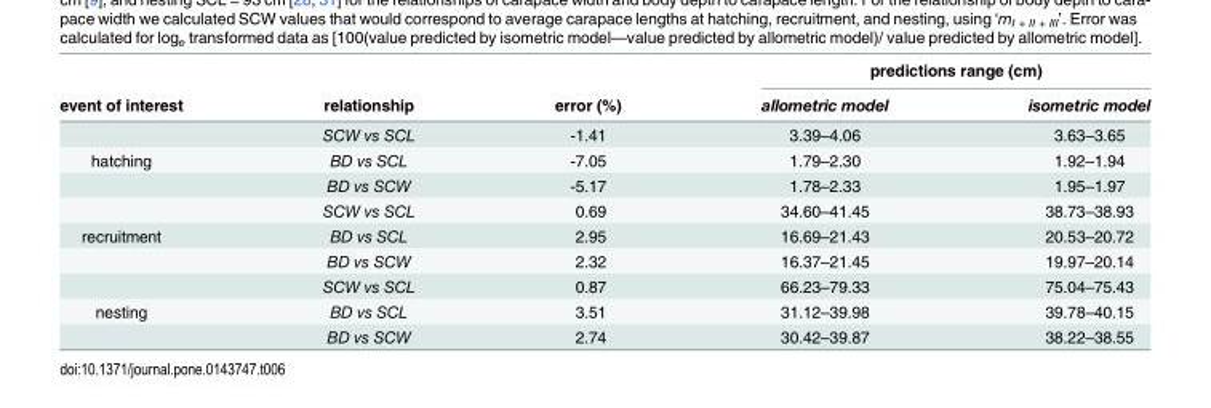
<table><thead><tr><td rowspan="2">event of interest</td><td rowspan="2">relationship</td><td rowspan="2">error (%)</td><td colspan="2">predictions range (cm)</td></tr><tr><td>allometric model</td><td>isometric model</td></tr></thead><tbody><tr><td></td><td>SCW vs SCL</td><td>-1.41</td><td>3.39–4.06</td><td>3.63–3.65</td></tr><tr><td rowspan="3">hatching</td><td>BD vs SCL</td><td>-7.05</td><td>1.79–2.30</td><td>1.92–1.94</td></tr><tr><td>BD vs SCW</td><td>-5.17</td><td>1.78–2.33</td><td>1.95–1.97</td></tr><tr><td>SCW vs SCL</td><td>0.69</td><td>34.60–41.45</td><td>38.73–38.93</td></tr><tr><td rowspan="3">recruitment</td><td>BD vs SCL</td><td>2.95</td><td>16.69–21.43</td><td>20.53–20.72</td></tr><tr><td>BD vs SCW</td><td>2.32</td><td>16.37–21.45</td><td>19.97–20.14</td></tr><tr><td>SCW vs SCL</td><td>0.87</td><td>66.23–79.33</td><td>75.04–75.43</td></tr><tr><td rowspan="2">nesting</td><td>BD vs SCL</td><td>3.51</td><td>31.12–39.98</td><td>39.78–40.15</td></tr><tr><td>BD vs SCW</td><td>2.74</td><td>30.42–39.87</td><td>38.22–38.55</td></tr></tbody></table>